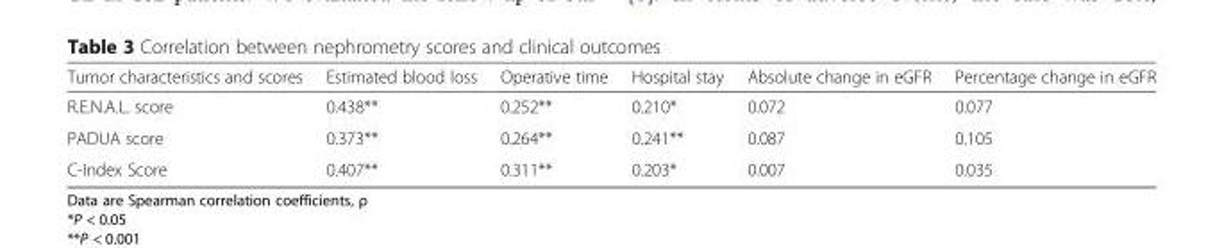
<table><thead><tr><td>Tumor characteristics and scores</td><td>Estimated blood loss</td><td>Operative time</td><td>Hospital stay</td><td>Absolute change in eGFR</td><td>Percentage change in eGFR</td></tr></thead><tbody><tr><td>R.E.N.A.L. score</td><td>0.438**</td><td>0.252**</td><td>0.210*</td><td>0.072</td><td>0.077</td></tr><tr><td>PADUA score</td><td>0.373**</td><td>0.264**</td><td>0.241**</td><td>0.087</td><td>0.105</td></tr><tr><td>C-Index Score</td><td>0.407**</td><td>0.311**</td><td>0.203*</td><td>0.007</td><td>0.035</td></tr></tbody></table>